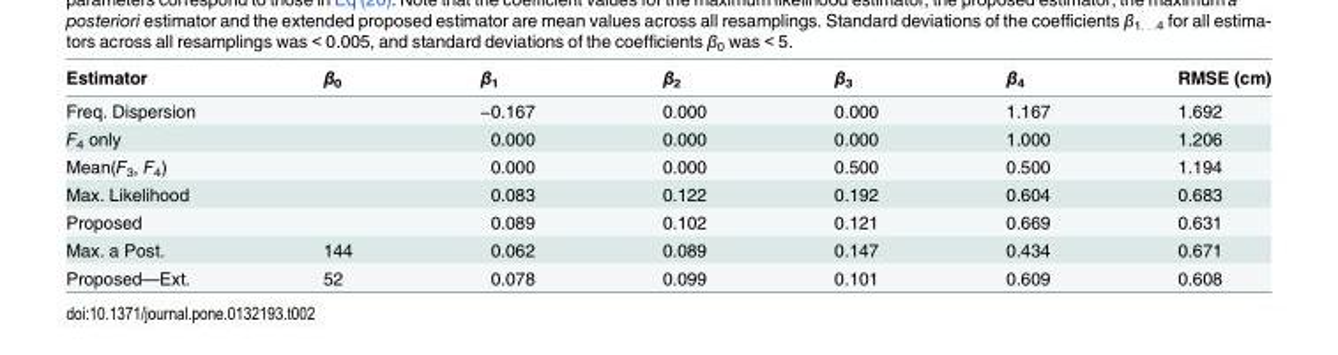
<table><thead><tr><td>Estimator</td><td>β<sub>0</sub></td><td>β<sub>1</sub></td><td>β<sub>2</sub></td><td>β<sub>3</sub></td><td>β<sub>4</sub></td><td>RMSE (cm)</td></tr></thead><tbody><tr><td>Freq. Dispersion</td><td></td><td>−0.167</td><td>0.000</td><td>0.000</td><td>1.167</td><td>1.692</td></tr><tr><td>F<sub>4</sub> only</td><td></td><td>0.000</td><td>0.000</td><td>0.000</td><td>1.000</td><td>1.206</td></tr><tr><td>Mean(F<sub>3</sub>, F<sub>4</sub>)</td><td></td><td>0.000</td><td>0.000</td><td>0.500</td><td>0.500</td><td>1.194</td></tr><tr><td>Max. Likelihood</td><td></td><td>0.083</td><td>0.122</td><td>0.192</td><td>0.604</td><td>0.683</td></tr><tr><td>Proposed</td><td></td><td>0.089</td><td>0.102</td><td>0.121</td><td>0.669</td><td>0.631</td></tr><tr><td>Max. a Post.</td><td>144</td><td>0.062</td><td>0.089</td><td>0.147</td><td>0.434</td><td>0.671</td></tr><tr><td>Proposed—Ext.</td><td>52</td><td>0.078</td><td>0.099</td><td>0.101</td><td>0.609</td><td>0.608</td></tr></tbody></table>